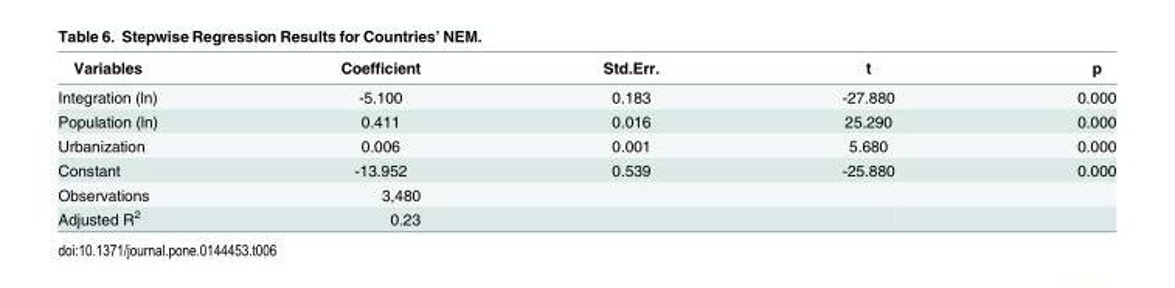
<table><thead><tr><td>Variables</td><td>Coefficient</td><td>Std.Err.</td><td>t</td><td>p</td></tr></thead><tbody><tr><td>Integration (ln)</td><td>-5.100</td><td>0.183</td><td>-27.880</td><td>0.000</td></tr><tr><td>Population (ln)</td><td>0.411</td><td>0.016</td><td>25.290</td><td>0.000</td></tr><tr><td>Urbanization</td><td>0.006</td><td>0.001</td><td>5.680</td><td>0.000</td></tr><tr><td>Constant</td><td>-13.952</td><td>0.539</td><td>-25.880</td><td>0.000</td></tr><tr><td>Observations</td><td>3,480</td><td></td><td></td><td></td></tr><tr><td>Adjusted R<sup>2</sup></td><td>0.23</td><td></td><td></td><td></td></tr></tbody></table>